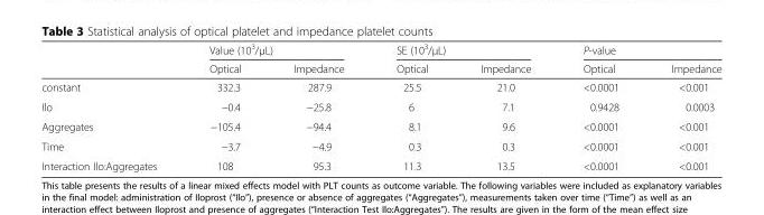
<table><thead><tr><td rowspan="2"></td><td colspan="2">Value (10<sup>3</sup>/μL)</td><td colspan="2">SE (10<sup>3</sup>/μL)</td><td colspan="2">P-value</td></tr><tr><td>Optical</td><td>Impedance</td><td>Optical</td><td>Impedance</td><td>Optical</td><td>Impedance</td></tr></thead><tbody><tr><td>constant</td><td>332.3</td><td>287.9</td><td>25.5</td><td>21.0</td><td>&lt;0.0001</td><td>&lt;0.001</td></tr><tr><td>Ilo</td><td>−0.4</td><td>−25.8</td><td>6</td><td>7.1</td><td>0.9428</td><td>0.0003</td></tr><tr><td>Aggregates</td><td>−105.4</td><td>−94.4</td><td>8.1</td><td>9.6</td><td>&lt;0.0001</td><td>&lt;0.001</td></tr><tr><td>Time</td><td>−3.7</td><td>−4.9</td><td>0.3</td><td>0.3</td><td>&lt;0.0001</td><td>&lt;0.001</td></tr><tr><td>Interaction Ilo:Aggregates</td><td>108</td><td>95.3</td><td>11.3</td><td>13.5</td><td>&lt;0.0001</td><td>&lt;0.001</td></tr></tbody></table>